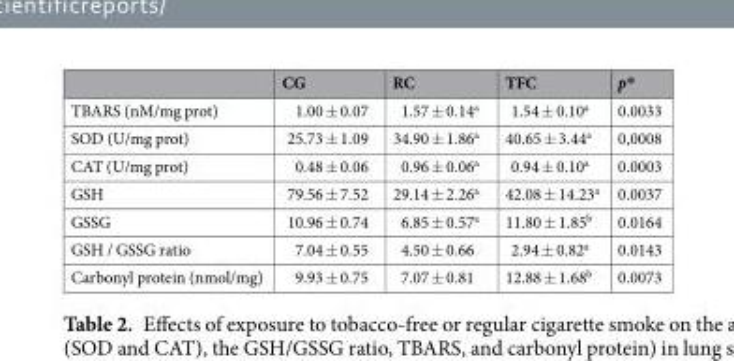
<table><thead><tr><td></td><td>CG</td><td>RC</td><td>TFC</td><td>p*</td></tr></thead><tbody><tr><td>TBARS (nM/mg prot)</td><td>1.00 ± 0.07</td><td>1.57 ± 0.14<sup>a</sup></td><td>1.54 ± 0.10<sup>a</sup></td><td>0.0033</td></tr><tr><td>SOD (U/mg prot)</td><td>25.73 ± 1.09</td><td>34.90 ± 1.86<sup>a</sup></td><td>40.65 ± 3.44<sup>a</sup></td><td>0,0008</td></tr><tr><td>CAT (U/mg prot)</td><td>0.48 ± 0.06</td><td>0.96 ± 0.06<sup>a</sup></td><td>0.94 ± 0.10<sup>a</sup></td><td>0.0003</td></tr><tr><td>GSH</td><td>79.56 ± 7.52</td><td>29.14 ± 2.26<sup>a</sup></td><td>42.08 ± 14.23<sup>a</sup></td><td>0.0037</td></tr><tr><td>GSSG</td><td>10.96 ± 0.74</td><td>6.85 ± 0.57<sup>a</sup></td><td>11.80 ± 1.85<sup>b</sup></td><td>0.0164</td></tr><tr><td>GSH / GSSG ratio</td><td>7.04 ± 0.55</td><td>4.50 ± 0.66</td><td>2.94 ± 0.82<sup>a</sup></td><td>0.0143</td></tr><tr><td>Carbonyl protein (nmol/mg)</td><td>9.93 ± 0.75</td><td>7.07 ± 0.81</td><td>12.88 ± 1.68<sup>b</sup></td><td>0.0073</td></tr></tbody></table>